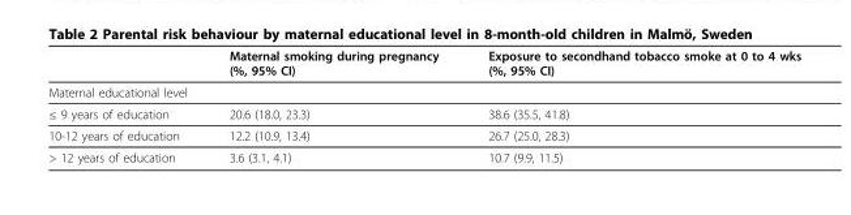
<table><thead><tr><td></td><td>Maternal smoking during pregnancy (%, 95% CI)</td><td>Exposure to secondhand tobacco smoke at 0 to 4 wks (%, 95% CI)</td></tr></thead><tbody><tr><td colspan="3">Maternal educational level</td></tr><tr><td>≤ 9 years of education</td><td>20.6 (18.0, 23.3)</td><td>38.6 (35.5, 41.8)</td></tr><tr><td>10-12 years of education</td><td>12.2 (10.9, 13.4)</td><td>26.7 (25.0, 28.3)</td></tr><tr><td>&gt; 12 years of education</td><td>3.6 (3.1, 4.1)</td><td>10.7 (9.9, 11.5)</td></tr></tbody></table>